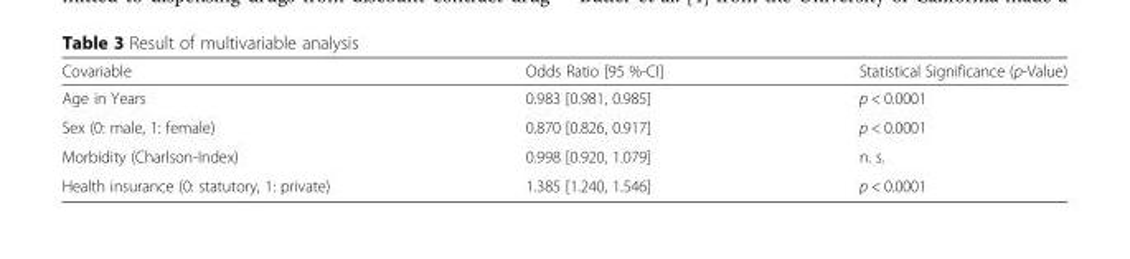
<table><thead><tr><td>Covariable</td><td>Odds Ratio [95 %-CI]</td><td>Statistical Significance (p-Value)</td></tr></thead><tbody><tr><td>Age in Years</td><td>0.983 [0.981, 0.985]</td><td>p &lt; 0.0001</td></tr><tr><td>Sex (0: male, 1: female)</td><td>0.870 [0.826, 0.917]</td><td>p &lt; 0.0001</td></tr><tr><td>Morbidity (Charlson-Index)</td><td>0.998 [0.920, 1.079]</td><td>n. s.</td></tr><tr><td>Health insurance (0: statutory, 1: private)</td><td>1.385 [1.240, 1.546]</td><td>p &lt; 0.0001</td></tr></tbody></table>